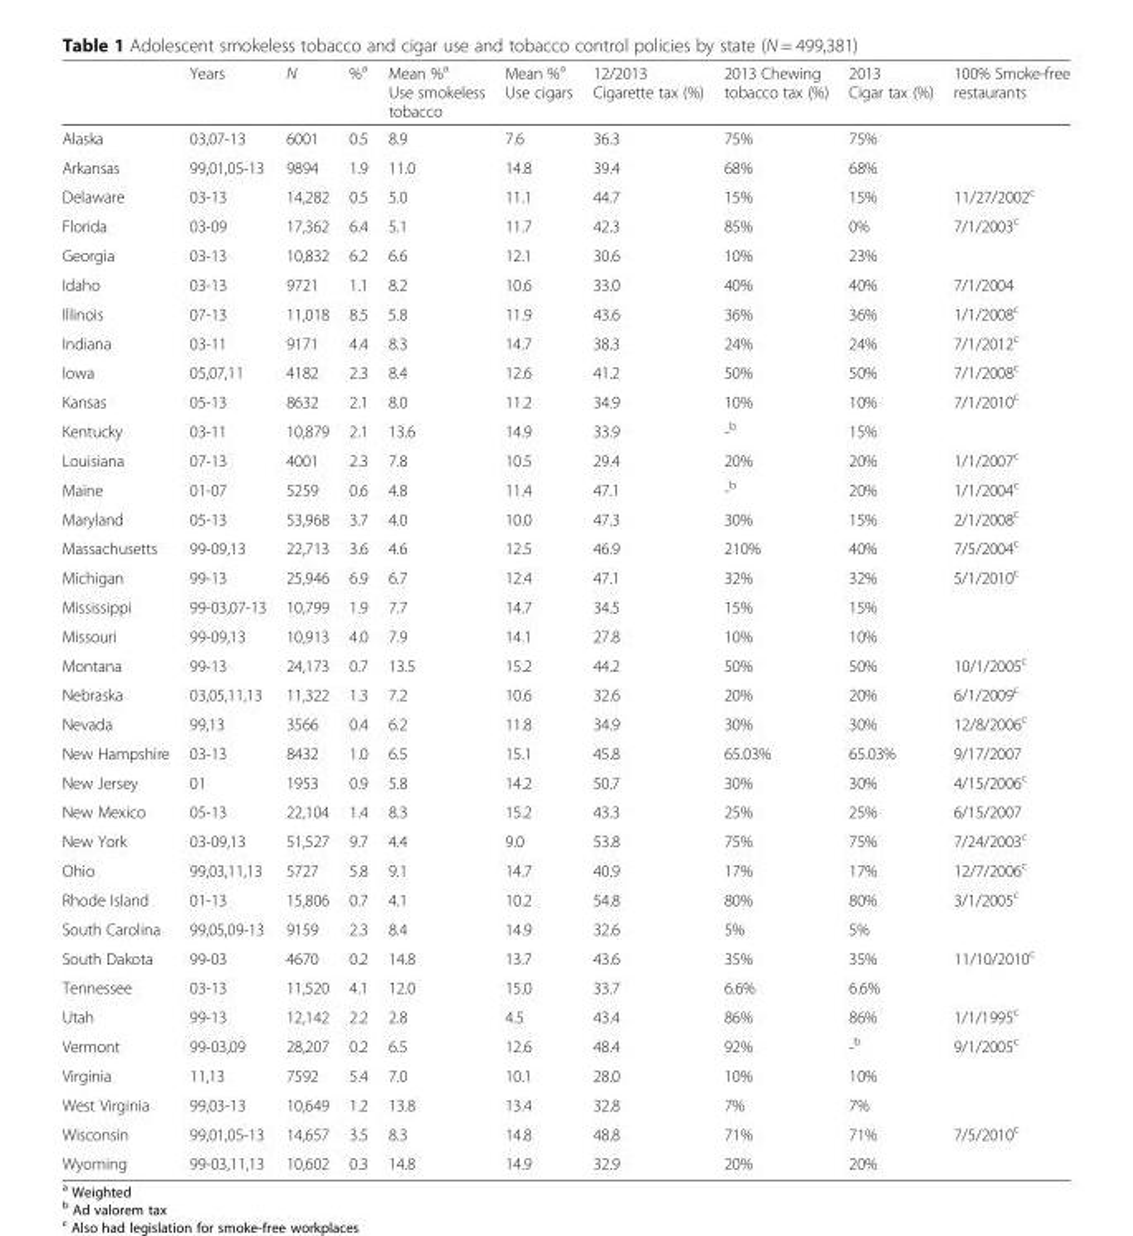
<table><thead><tr><td></td><td>Years</td><td>N</td><td>%<sup>a</sup></td><td>Mean %<sup>a</sup> Use smokeless tobacco</td><td>Mean %<sup>a</sup> Use cigars</td><td>12/2013 Cigarette tax (%)</td><td>2013 Chewing tobacco tax (%)</td><td>2013 Cigar tax (%)</td><td>100% Smoke-free restaurants</td></tr></thead><tbody><tr><td>Alaska</td><td>03,07-13</td><td>6001</td><td>0.5</td><td>8.9</td><td>7.6</td><td>36.3</td><td>75%</td><td>75%</td><td></td></tr><tr><td>Arkansas</td><td>99,01,05-13</td><td>9894</td><td>1.9</td><td>11.0</td><td>14.8</td><td>39.4</td><td>68%</td><td>68%</td><td></td></tr><tr><td>Delaware</td><td>03-13</td><td>14,282</td><td>0.5</td><td>5.0</td><td>11.1</td><td>44.7</td><td>15%</td><td>15%</td><td>11/27/2002<sup>c</sup></td></tr><tr><td>Florida</td><td>03-09</td><td>17,362</td><td>6.4</td><td>5.1</td><td>11.7</td><td>42.3</td><td>85%</td><td>0%</td><td>7/1/2003<sup>c</sup></td></tr><tr><td>Georgia</td><td>03-13</td><td>10,832</td><td>6.2</td><td>6.6</td><td>12.1</td><td>30.6</td><td>10%</td><td>23%</td><td></td></tr><tr><td>Idaho</td><td>03-13</td><td>9721</td><td>1.1</td><td>8.2</td><td>10.6</td><td>33.0</td><td>40%</td><td>40%</td><td>7/1/2004</td></tr><tr><td>Illinois</td><td>07-13</td><td>11,018</td><td>8.5</td><td>5.8</td><td>11.9</td><td>43.6</td><td>36%</td><td>36%</td><td>1/1/2008<sup>c</sup></td></tr><tr><td>Indiana</td><td>03-11</td><td>9171</td><td>4.4</td><td>8.3</td><td>14.7</td><td>38.3</td><td>24%</td><td>24%</td><td>7/1/2012<sup>c</sup></td></tr><tr><td>Iowa</td><td>05,07,11</td><td>4182</td><td>2.3</td><td>8.4</td><td>12.6</td><td>41.2</td><td>50%</td><td>50%</td><td>7/1/2008<sup>c</sup></td></tr><tr><td>Kansas</td><td>05-13</td><td>8632</td><td>2.1</td><td>8.0</td><td>11.2</td><td>34.9</td><td>10%</td><td>10%</td><td>7/1/2010<sup>c</sup></td></tr><tr><td>Kentucky</td><td>03-11</td><td>10,879</td><td>2.1</td><td>13.6</td><td>14.9</td><td>33.9</td><td>-<sup>b</sup></td><td>15%</td><td></td></tr><tr><td>Louisiana</td><td>07-13</td><td>4001</td><td>2.3</td><td>7.8</td><td>10.5</td><td>29.4</td><td>20%</td><td>20%</td><td>1/1/2007<sup>c</sup></td></tr><tr><td>Maine</td><td>01-07</td><td>5259</td><td>0.6</td><td>4.8</td><td>11.4</td><td>47.1</td><td>-<sup>b</sup></td><td>20%</td><td>1/1/2004<sup>c</sup></td></tr><tr><td>Maryland</td><td>05-13</td><td>53,968</td><td>3.7</td><td>4.0</td><td>10.0</td><td>47.3</td><td>30%</td><td>15%</td><td>2/1/2008<sup>c</sup></td></tr><tr><td>Massachusetts</td><td>99-09,13</td><td>22,713</td><td>3.6</td><td>4.6</td><td>12.5</td><td>46.9</td><td>210%</td><td>40%</td><td>7/5/2004<sup>c</sup></td></tr><tr><td>Michigan</td><td>99-13</td><td>25,946</td><td>6.9</td><td>6.7</td><td>12.4</td><td>47.1</td><td>32%</td><td>32%</td><td>5/1/2010<sup>c</sup></td></tr><tr><td>Mississippi</td><td>99-03,07-13</td><td>10,799</td><td>1.9</td><td>7.7</td><td>14.7</td><td>34.5</td><td>15%</td><td>15%</td><td></td></tr><tr><td>Missouri</td><td>99-09,13</td><td>10,913</td><td>4.0</td><td>7.9</td><td>14.1</td><td>27.8</td><td>10%</td><td>10%</td><td></td></tr><tr><td>Montana</td><td>99-13</td><td>24,173</td><td>0.7</td><td>13.5</td><td>15.2</td><td>44.2</td><td>50%</td><td>50%</td><td>10/1/2005<sup>c</sup></td></tr><tr><td>Nebraska</td><td>03,05,11,13</td><td>11,322</td><td>1.3</td><td>7.2</td><td>10.6</td><td>32.6</td><td>20%</td><td>20%</td><td>6/1/2009<sup>c</sup></td></tr><tr><td>Nevada</td><td>99,13</td><td>3566</td><td>0.4</td><td>6.2</td><td>11.8</td><td>34.9</td><td>30%</td><td>30%</td><td>12/8/2006<sup>c</sup></td></tr><tr><td>New Hampshire</td><td>03-13</td><td>8432</td><td>1.0</td><td>6.5</td><td>15.1</td><td>45.8</td><td>65.03%</td><td>65.03%</td><td>9/17/2007</td></tr><tr><td>New Jersey</td><td>01</td><td>1953</td><td>0.9</td><td>5.8</td><td>14.2</td><td>50.7</td><td>30%</td><td>30%</td><td>4/15/2006<sup>c</sup></td></tr><tr><td>New Mexico</td><td>05-13</td><td>22,104</td><td>1.4</td><td>8.3</td><td>15.2</td><td>43.3</td><td>25%</td><td>25%</td><td>6/15/2007</td></tr><tr><td>New York</td><td>03-09,13</td><td>51,527</td><td>9.7</td><td>4.4</td><td>9.0</td><td>53.8</td><td>75%</td><td>75%</td><td>7/24/2003<sup>c</sup></td></tr><tr><td>Ohio</td><td>99,03,11,13</td><td>5727</td><td>5.8</td><td>9.1</td><td>14.7</td><td>40.9</td><td>17%</td><td>17%</td><td>12/7/2006<sup>c</sup></td></tr><tr><td>Rhode Island</td><td>01-13</td><td>15,806</td><td>0.7</td><td>4.1</td><td>10.2</td><td>54.8</td><td>80%</td><td>80%</td><td>3/1/2005<sup>c</sup></td></tr><tr><td>South Carolina</td><td>99,05,09-13</td><td>9159</td><td>2.3</td><td>8.4</td><td>14.9</td><td>32.6</td><td>5%</td><td>5%</td><td></td></tr><tr><td>South Dakota</td><td>99-03</td><td>4670</td><td>0.2</td><td>14.8</td><td>13.7</td><td>43.6</td><td>35%</td><td>35%</td><td>11/10/2010<sup>c</sup></td></tr><tr><td>Tennessee</td><td>03-13</td><td>11,520</td><td>4.1</td><td>12.0</td><td>15.0</td><td>33.7</td><td>6.6%</td><td>6.6%</td><td></td></tr><tr><td>Utah</td><td>99-13</td><td>12,142</td><td>2.2</td><td>2.8</td><td>4.5</td><td>43.4</td><td>86%</td><td>86%</td><td>1/1/1995<sup>c</sup></td></tr><tr><td>Vermont</td><td>99-03,09</td><td>28,207</td><td>0.2</td><td>6.5</td><td>12.6</td><td>48.4</td><td>92%</td><td>-<sup>b</sup></td><td>9/1/2005<sup>c</sup></td></tr><tr><td>Virginia</td><td>11,13</td><td>7592</td><td>5.4</td><td>7.0</td><td>10.1</td><td>28.0</td><td>10%</td><td>10%</td><td></td></tr><tr><td>West Virginia</td><td>99,03-13</td><td>10,649</td><td>1.2</td><td>13.8</td><td>13.4</td><td>32.8</td><td>7%</td><td>7%</td><td></td></tr><tr><td>Wisconsin</td><td>99,01,05-13</td><td>14,657</td><td>3.5</td><td>8.3</td><td>14.8</td><td>48.8</td><td>71%</td><td>71%</td><td>7/5/2010<sup>c</sup></td></tr><tr><td>Wyoming</td><td>99-03,11,13</td><td>10,602</td><td>0.3</td><td>14.8</td><td>14.9</td><td>32.9</td><td>20%</td><td>20%</td><td></td></tr></tbody></table>